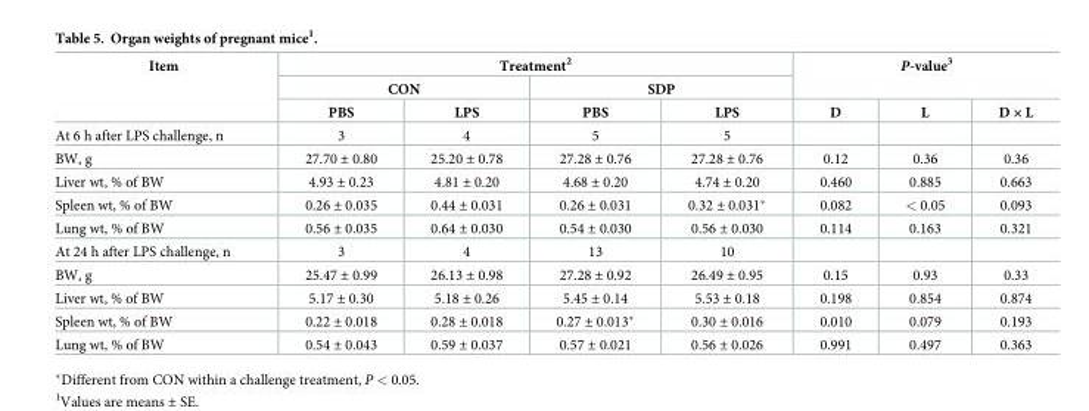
<table><thead><tr><td rowspan="3">Item</td><td colspan="4">Treatment<sup>2</sup></td><td rowspan="2" colspan="3">P-value<sup>3</sup></td></tr><tr><td colspan="2">CON</td><td colspan="2">SDP</td></tr><tr><td>PBS</td><td>LPS</td><td>PBS</td><td>LPS</td><td>D</td><td>L</td><td>D × L</td></tr></thead><tbody><tr><td>At 6 h after LPS challenge, n</td><td>3</td><td>4</td><td>5</td><td>5</td><td></td><td></td><td></td></tr><tr><td>BW, g</td><td>27.70 ± 0.80</td><td>25.20 ± 0.78</td><td>27.28 ± 0.76</td><td>27.28 ± 0.76</td><td>0.12</td><td>0.36</td><td>0.36</td></tr><tr><td>Liver wt, % of BW</td><td>4.93 ± 0.23</td><td>4.81 ± 0.20</td><td>4.68 ± 0.20</td><td>4.74 ± 0.20</td><td>0.460</td><td>0.885</td><td>0.663</td></tr><tr><td>Spleen wt, % of BW</td><td>0.26 ± 0.035</td><td>0.44 ± 0.031</td><td>0.26 ± 0.031</td><td>0.32 ± 0.031*</td><td>0.082</td><td>&lt; 0.05</td><td>0.093</td></tr><tr><td>Lung wt, % of BW</td><td>0.56 ± 0.035</td><td>0.64 ± 0.030</td><td>0.54 ± 0.030</td><td>0.56 ± 0.030</td><td>0.114</td><td>0.163</td><td>0.321</td></tr><tr><td>At 24 h after LPS challenge, n</td><td>3</td><td>4</td><td>13</td><td>10</td><td></td><td></td><td></td></tr><tr><td>BW, g</td><td>25.47 ± 0.99</td><td>26.13 ± 0.98</td><td>27.28 ± 0.92</td><td>26.49 ± 0.95</td><td>0.15</td><td>0.93</td><td>0.33</td></tr><tr><td>Liver wt, % of BW</td><td>5.17 ± 0.30</td><td>5.18 ± 0.26</td><td>5.45 ± 0.14</td><td>5.53 ± 0.18</td><td>0.198</td><td>0.854</td><td>0.874</td></tr><tr><td>Spleen wt, % of BW</td><td>0.22 ± 0.018</td><td>0.28 ± 0.018</td><td>0.27 ± 0.013*</td><td>0.30 ± 0.016</td><td>0.010</td><td>0.079</td><td>0.193</td></tr><tr><td>Lung wt, % of BW</td><td>0.54 ± 0.043</td><td>0.59 ± 0.037</td><td>0.57 ± 0.021</td><td>0.56 ± 0.026</td><td>0.991</td><td>0.497</td><td>0.363</td></tr></tbody></table>